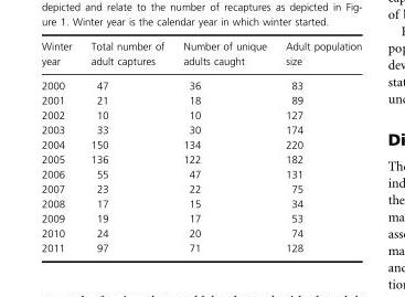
<table><thead><tr><td>Winter year</td><td>Total number of adult captures</td><td>Number of unique adults caught</td><td>Adult population size</td></tr></thead><tbody><tr><td>2000</td><td>47</td><td>36</td><td>83</td></tr><tr><td>2001</td><td>21</td><td>18</td><td>89</td></tr><tr><td>2002</td><td>10</td><td>10</td><td>127</td></tr><tr><td>2003</td><td>33</td><td>30</td><td>174</td></tr><tr><td>2004</td><td>150</td><td>134</td><td>220</td></tr><tr><td>2005</td><td>136</td><td>122</td><td>182</td></tr><tr><td>2006</td><td>55</td><td>47</td><td>131</td></tr><tr><td>2007</td><td>23</td><td>22</td><td>75</td></tr><tr><td>2008</td><td>17</td><td>15</td><td>34</td></tr><tr><td>2009</td><td>19</td><td>17</td><td>53</td></tr><tr><td>2010</td><td>24</td><td>20</td><td>74</td></tr><tr><td>2011</td><td>97</td><td>71</td><td>128</td></tr></tbody></table>